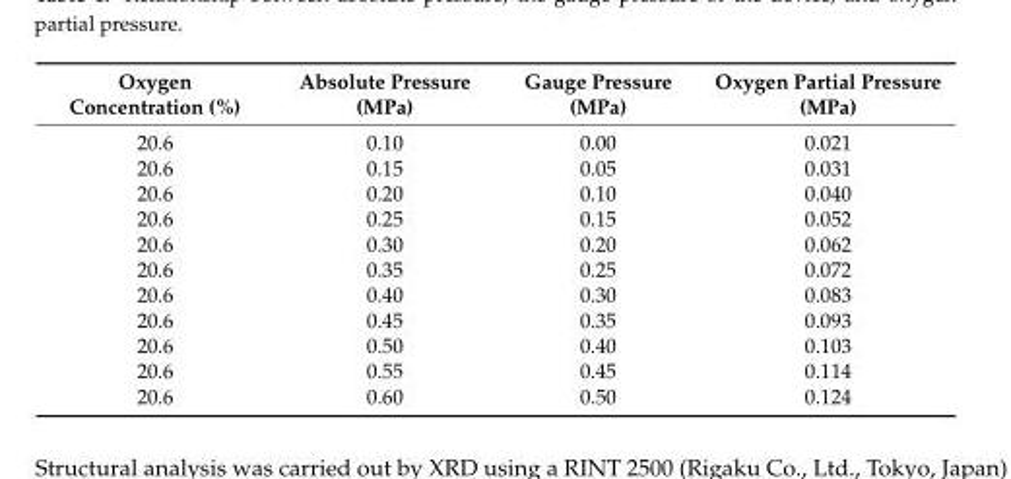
<table><thead><tr><td>Oxygen Concentration (%)</td><td>Absolute Pressure (MPa)</td><td>Gauge Pressure (MPa)</td><td>Oxygen Partial Pressure (MPa)</td></tr></thead><tbody><tr><td>20.6</td><td>0.10</td><td>0.00</td><td>0.021</td></tr><tr><td>20.6</td><td>0.15</td><td>0.05</td><td>0.031</td></tr><tr><td>20.6</td><td>0.20</td><td>0.10</td><td>0.040</td></tr><tr><td>20.6</td><td>0.25</td><td>0.15</td><td>0.052</td></tr><tr><td>20.6</td><td>0.30</td><td>0.20</td><td>0.062</td></tr><tr><td>20.6</td><td>0.35</td><td>0.25</td><td>0.072</td></tr><tr><td>20.6</td><td>0.40</td><td>0.30</td><td>0.083</td></tr><tr><td>20.6</td><td>0.45</td><td>0.35</td><td>0.093</td></tr><tr><td>20.6</td><td>0.50</td><td>0.40</td><td>0.103</td></tr><tr><td>20.6</td><td>0.55</td><td>0.45</td><td>0.114</td></tr><tr><td>20.6</td><td>0.60</td><td>0.50</td><td>0.124</td></tr></tbody></table>